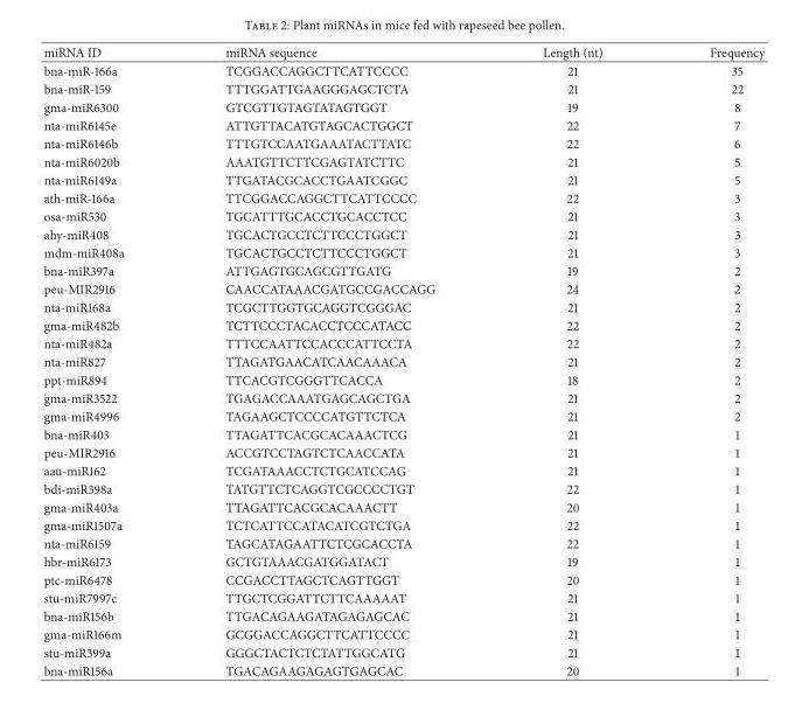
<table><thead><tr><td>miRNA ID</td><td>miRNA sequence</td><td>Length (nt)</td><td>Frequency</td></tr></thead><tbody><tr><td>bna-miR-166a</td><td>TCGGACCAGGCTTCATTCCCC</td><td>21</td><td>35</td></tr><tr><td>bna-miR-159</td><td>TTTGGATTGAAGGGAGCTCTA</td><td>21</td><td>22</td></tr><tr><td>gma-miR6300</td><td>GTCGTTGTAGTATAGTGGT</td><td>19</td><td>8</td></tr><tr><td>nta-miR6145e</td><td>ATTGTTACATGTAGCACTGGCT</td><td>22</td><td>7</td></tr><tr><td>nta-miR6146b</td><td>TTTGTCCAATGAAATACTTATC</td><td>22</td><td>6</td></tr><tr><td>nta-miR6020b</td><td>AAATGTTCTTCGAGTATCTTC</td><td>21</td><td>5</td></tr><tr><td>nta-miR6149a</td><td>TTGATACGCACCTGAATCGGC</td><td>21</td><td>5</td></tr><tr><td>ath-miR-166a</td><td>TTCGGACCAGGCTTCATTCCCC</td><td>22</td><td>3</td></tr><tr><td>osa-miR530</td><td>TGCATTTGCACCTGCACCTCC</td><td>21</td><td>3</td></tr><tr><td>ahy-miR408</td><td>TGCACTGCCTCTTCCCTGGCT</td><td>21</td><td>3</td></tr><tr><td>mdm-miR408a</td><td>TGCACTGCCTCTTCCCTGGCT</td><td>21</td><td>3</td></tr><tr><td>bna-miR397a</td><td>ATTGAGTGCAGCGTTGATG</td><td>19</td><td>2</td></tr><tr><td>peu-MIR2916</td><td>CAACCATAAACGATGCCGACCAGG</td><td>24</td><td>2</td></tr><tr><td>nta-miR168a</td><td>TCGCTTGGTGCAGGTCGGGAC</td><td>21</td><td>2</td></tr><tr><td>gma-miR482b</td><td>TCTTCCCTACACCTCCCATACC</td><td>22</td><td>2</td></tr><tr><td>nta-miR482a</td><td>TTTCCAATTCCACCCATTCCTA</td><td>22</td><td>2</td></tr><tr><td>nta-miR827</td><td>TTAGATGAACATCAACAAACA</td><td>21</td><td>2</td></tr><tr><td>ppt-miR894</td><td>TTCACGTCGGGTTCACCA</td><td>18</td><td>2</td></tr><tr><td>gma-miR3522</td><td>TGAGACCAAATGAGCAGCTGA</td><td>21</td><td>2</td></tr><tr><td>gma-miR4996</td><td>TAGAAGCTCCCCATGTTCTCA</td><td>21</td><td>2</td></tr><tr><td>bna-miR403</td><td>TTAGATTCACGCACAAACTCG</td><td>21</td><td>1</td></tr><tr><td>peu-MIR2916</td><td>ACCGTCCTAGTCTCAACCATA</td><td>21</td><td>1</td></tr><tr><td>aau-miR162</td><td>TCGATAAACCTCTGCATCCAG</td><td>21</td><td>1</td></tr><tr><td>bdi-miR398a</td><td>TATGTTCTCAGGTCGCCCCTGT</td><td>22</td><td>1</td></tr><tr><td>gma-miR403a</td><td>TTAGATTCACGCACAAACTT</td><td>20</td><td>1</td></tr><tr><td>gma-miR1507a</td><td>TCTCATTCCATACATCGTCTGA</td><td>22</td><td>1</td></tr><tr><td>nta-miR6159</td><td>TAGCATAGAATTCTCGCACCTA</td><td>22</td><td>1</td></tr><tr><td>hbr-miR6173</td><td>GCTGTAAACGATGGATACT</td><td>19</td><td>1</td></tr><tr><td>ptc-miR6478</td><td>CCGACCTTAGCTCAGTTGGT</td><td>20</td><td>1</td></tr><tr><td>stu-miR7997c</td><td>TTGCTCGGATTCTTCAAAAAT</td><td>21</td><td>1</td></tr><tr><td>bna-miR156b</td><td>TTGACAGAAGATAGAGAGCAC</td><td>21</td><td>1</td></tr><tr><td>gma-miR166m</td><td>GCGGACCAGGCTTCATTCCCC</td><td>21</td><td>1</td></tr><tr><td>stu-miR399a</td><td>GGGCTACTCTCTATTGGCATG</td><td>21</td><td>1</td></tr><tr><td>bna-miR156a</td><td>TGACAGAAGAGAGTGAGCAC</td><td>20</td><td>1</td></tr></tbody></table>